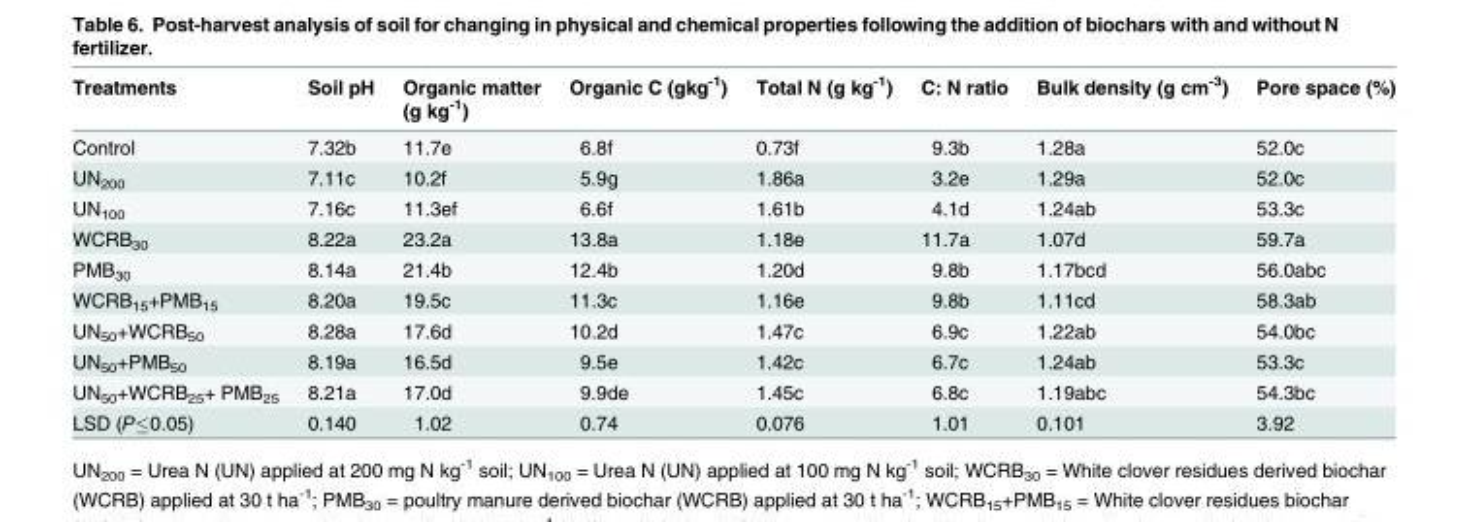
<table><thead><tr><td>Treatments</td><td>Soil pH</td><td>Organic matter (g kg<sup>-1</sup>)</td><td>Organic C (gkg<sup>-1</sup>)</td><td>Total N (g kg<sup>-1</sup>)</td><td>C: N ratio</td><td>Bulk density (g cm<sup>-3</sup>)</td><td>Pore space (%)</td></tr></thead><tbody><tr><td>Control</td><td>7.32b</td><td>11.7e</td><td>6.8f</td><td>0.73f</td><td>9.3b</td><td>1.28a</td><td>52.0c</td></tr><tr><td>UN<sub>200</sub></td><td>7.11c</td><td>10.2f</td><td>5.9g</td><td>1.86a</td><td>3.2e</td><td>1.29a</td><td>52.0c</td></tr><tr><td>UN<sub>100</sub></td><td>7.16c</td><td>11.3ef</td><td>6.6f</td><td>1.61b</td><td>4.1d</td><td>1.24ab</td><td>53.3c</td></tr><tr><td>WCRB<sub>30</sub></td><td>8.22a</td><td>23.2a</td><td>13.8a</td><td>1.18e</td><td>11.7a</td><td>1.07d</td><td>59.7a</td></tr><tr><td>PMB<sub>30</sub></td><td>8.14a</td><td>21.4b</td><td>12.4b</td><td>1.20d</td><td>9.8b</td><td>1.17bcd</td><td>56.0abc</td></tr><tr><td>WCRB<sub>15</sub>+PMB<sub>15</sub></td><td>8.20a</td><td>19.5c</td><td>11.3c</td><td>1.16e</td><td>9.8b</td><td>1.11cd</td><td>58.3ab</td></tr><tr><td>UN<sub>50</sub>+WCRB<sub>50</sub></td><td>8.28a</td><td>17.6d</td><td>10.2d</td><td>1.47c</td><td>6.9c</td><td>1.22ab</td><td>54.0bc</td></tr><tr><td>UN<sub>50</sub>+PMB<sub>50</sub></td><td>8.19a</td><td>16.5d</td><td>9.5e</td><td>1.42c</td><td>6.7c</td><td>1.24ab</td><td>53.3c</td></tr><tr><td>UN<sub>50</sub>+WCRB<sub>25</sub>+ PMB<sub>25</sub></td><td>8.21a</td><td>17.0d</td><td>9.9de</td><td>1.45c</td><td>6.8c</td><td>1.19abc</td><td>54.3bc</td></tr><tr><td>LSD (P≤0.05)</td><td>0.140</td><td>1.02</td><td>0.74</td><td>0.076</td><td>1.01</td><td>0.101</td><td>3.92</td></tr></tbody></table>